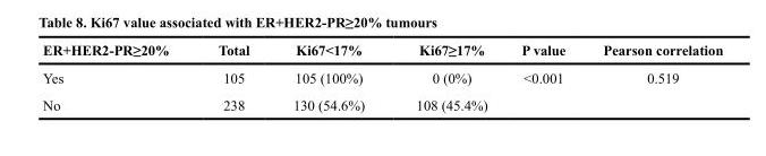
<table><thead><tr><td>ER+HER2-PR≥20%</td><td>Total</td><td>Ki67&lt;17%</td><td>Ki67≥17%</td><td>P value</td><td>Pearson correlation</td></tr></thead><tbody><tr><td>Yes</td><td>105</td><td>105 (100%)</td><td>0 (0%)</td><td>&lt;0.001</td><td>0.519</td></tr><tr><td>No</td><td>238</td><td>130 (54.6%)</td><td>108 (45.4%)</td><td></td><td></td></tr></tbody></table>